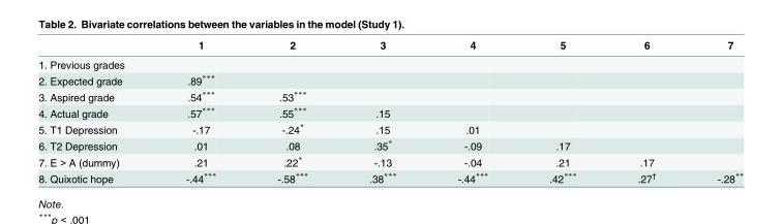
<table><thead><tr><td></td><td>1</td><td>2</td><td>3</td><td>4</td><td>5</td><td>6</td><td>7</td></tr></thead><tbody><tr><td colspan="8">1. Previous grades</td></tr><tr><td>2. Expected grade</td><td>.89***</td><td></td><td></td><td></td><td></td><td></td><td></td></tr><tr><td>3. Aspired grade</td><td>.54***</td><td>.53***</td><td></td><td></td><td></td><td></td><td></td></tr><tr><td>4. Actual grade</td><td>.57***</td><td>.55***</td><td>.15</td><td></td><td></td><td></td><td></td></tr><tr><td>5. T1 Depression</td><td>-.17</td><td>-.24*</td><td>.15</td><td>.01</td><td></td><td></td><td></td></tr><tr><td>6. T2 Depression</td><td>.01</td><td>.08</td><td>.35*</td><td>-.09</td><td>.17</td><td></td><td></td></tr><tr><td>7. E &gt; A (dummy)</td><td>.21</td><td>.22*</td><td>-.13</td><td>-.04</td><td>.21</td><td>.17</td><td></td></tr><tr><td>8. Quixotic hope</td><td>-.44***</td><td>-.58***</td><td>.38***</td><td>-.44***</td><td>.42***</td><td>.27<sup>†</sup></td><td>-.28**</td></tr></tbody></table>